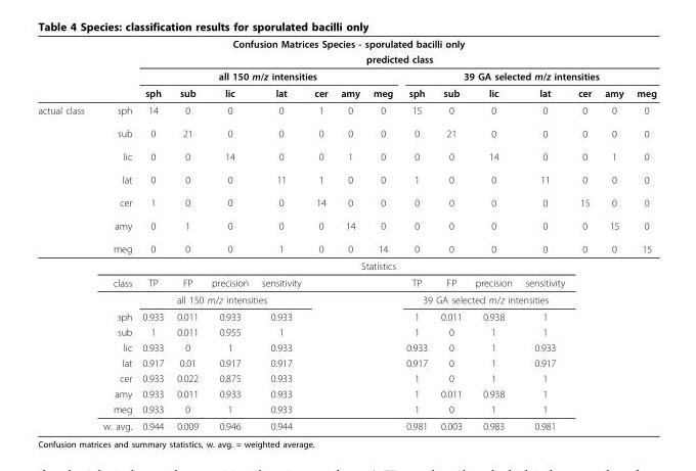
<table><thead><tr><td colspan="16">Confusion Matrices Species - sporulated bacilli only</td></tr><tr><td rowspan="3"></td><td rowspan="3"></td><td colspan="14">predicted class</td></tr><tr><td colspan="7">all 150 m/z intensities</td><td colspan="7">39 GA selected m/z intensities</td></tr><tr><td>sph</td><td>sub</td><td>lic</td><td>lat</td><td>cer</td><td>amy</td><td>meg</td><td>sph</td><td>sub</td><td>lic</td><td>lat</td><td>cer</td><td>amy</td><td>meg</td></tr></thead><tbody><tr><td rowspan="12">actual class</td><td>sph sub lic lat cer amy meg</td><td>14 0 0 0 1 0 0</td><td>0 21 0 0 0 1 0</td><td>0 0 14 0 0 0 0</td><td>0 0 0 11 0 0 1</td><td>1 0 0 1 14 0 0</td><td>0 0 1 0 0 14 0</td><td>0 0 0 0 0 0 14</td><td>15 0 0 1 0 0 0</td><td>0 21 0 0 0 0 0</td><td>0 0 14 0 0 0 0</td><td>0 0 0 11 0 0 0</td><td>0 0 0 0 15 0 0</td><td>0 0 1 0 0 15 0</td><td>0 0 0 0 0 0 15</td></tr><tr><td colspan="15">Statistics</td></tr><tr><td>class</td><td>TP</td><td>FP</td><td>precision</td><td>sensitivity</td><td></td><td></td><td></td><td>TP</td><td>FP</td><td>precision</td><td>sensitivity</td><td></td><td></td><td></td></tr><tr><td></td><td colspan="4">all 150 m/z intensities</td><td></td><td></td><td></td><td colspan="4">39 GA selected m/z intensities</td><td></td><td></td><td></td></tr><tr><td>sph</td><td>0.933</td><td>0.011</td><td>0.933</td><td>0.933</td><td></td><td></td><td></td><td>1</td><td>0.011</td><td>0.938</td><td>1</td><td></td><td></td><td></td></tr><tr><td>sub</td><td>1</td><td>0.011</td><td>0.955</td><td>1</td><td></td><td></td><td></td><td>1</td><td>0</td><td>1</td><td>1</td><td></td><td></td><td></td></tr><tr><td>lic</td><td>0.933</td><td>0</td><td>1</td><td>0.933</td><td></td><td></td><td></td><td>0.933</td><td>0</td><td>1</td><td>0.933</td><td></td><td></td><td></td></tr><tr><td>lat</td><td>0.917</td><td>0.01</td><td>0.917</td><td>0.917</td><td></td><td></td><td></td><td>0.917</td><td>0</td><td>1</td><td>0.917</td><td></td><td></td><td></td></tr><tr><td>cer</td><td>0.933</td><td>0.022</td><td>0.875</td><td>0.933</td><td></td><td></td><td></td><td>1</td><td>0</td><td>1</td><td>1</td><td></td><td></td><td></td></tr><tr><td>amy</td><td>0.933</td><td>0.011</td><td>0.933</td><td>0.933</td><td></td><td></td><td></td><td>1</td><td>0.011</td><td>0.938</td><td>1</td><td></td><td></td><td></td></tr><tr><td>meg</td><td>0.933</td><td>0</td><td>1</td><td>0.933</td><td></td><td></td><td></td><td>1</td><td>0</td><td>1</td><td>1</td><td></td><td></td><td></td></tr><tr><td>w. avg.</td><td>0.944</td><td>0.009</td><td>0.946</td><td>0.944</td><td></td><td></td><td></td><td>0.981</td><td>0.003</td><td>0.983</td><td>0.981</td><td></td><td></td><td></td></tr></tbody></table>